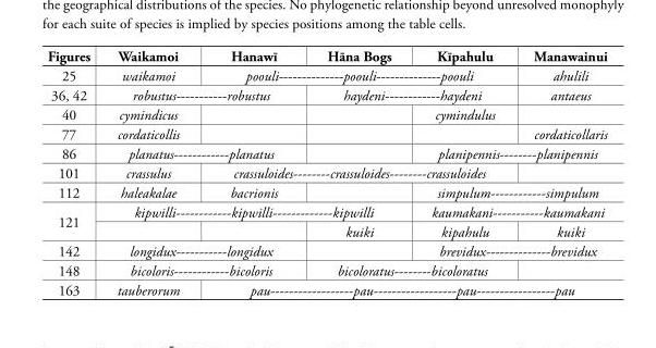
<table><thead><tr><td>Figures</td><td>Waikamoi</td><td>Hanawī</td><td>Hāna Bogs</td><td>Kīpahulu</td><td>Manawainui</td></tr></thead><tbody><tr><td>25</td><td>waikamoi</td><td colspan="3">poouli--------------poouli--------------poouli</td><td>ahulili</td></tr><tr><td>36, 42</td><td colspan="2">robustus-----------robustus</td><td colspan="2">haydeni------------haydeni</td><td>antaeus</td></tr><tr><td>40</td><td>cymindicus</td><td></td><td></td><td>cymindulus</td><td></td></tr><tr><td>77</td><td>cordaticollis</td><td></td><td></td><td></td><td>cordaticollaris</td></tr><tr><td>86</td><td colspan="2">planatus------------planatus</td><td></td><td colspan="2">planipennis--------planipennis</td></tr><tr><td>101</td><td>crassulus</td><td colspan="3">crassuloides--------crassuloides--------crassuloides</td><td></td></tr><tr><td>112</td><td>haleakalae</td><td>bacrionis</td><td></td><td colspan="2">simpulum------------simpulum</td></tr><tr><td rowspan="2">121</td><td colspan="3">kipwilli------------kipwilli-------------kipwilli</td><td colspan="2">kaumakani-----------kaumakani</td></tr><tr><td></td><td></td><td>kuiki</td><td>kipahulu</td><td>kuiki</td></tr><tr><td>142</td><td colspan="2">longidux-----------longidux</td><td></td><td colspan="2">brevidux--------------brevidux</td></tr><tr><td>148</td><td colspan="2">bicoloris------------bicoloris</td><td colspan="2">bicoloratus--------bicoloratus</td><td></td></tr><tr><td>163</td><td>tauberorum</td><td colspan="4">pau------------------pau------------------pau-----------------pau</td></tr></tbody></table>